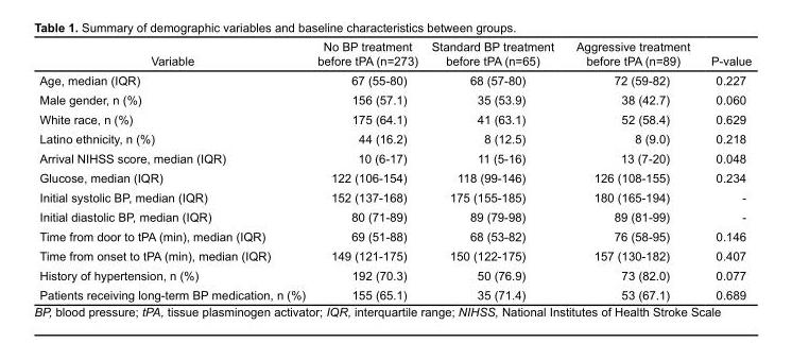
<table><thead><tr><td>Variable</td><td>No BP treatment before tPA (n=273)</td><td>Standard BP treatment before tPA (n=65)</td><td>Aggressive treatment before tPA (n=89)</td><td>P-value</td></tr></thead><tbody><tr><td>Age, median (IQR)</td><td>67 (55-80)</td><td>68 (57-80)</td><td>72 (59-82)</td><td>0.227</td></tr><tr><td>Male gender, n (%)</td><td>156 (57.1)</td><td>35 (53.9)</td><td>38 (42.7)</td><td>0.060</td></tr><tr><td>White race, n (%)</td><td>175 (64.1)</td><td>41 (63.1)</td><td>52 (58.4)</td><td>0.629</td></tr><tr><td>Latino ethnicity, n (%)</td><td>44 (16.2)</td><td>8 (12.5)</td><td>8 (9.0)</td><td>0.218</td></tr><tr><td>Arrival NIHSS score, median (IQR)</td><td>10 (6-17)</td><td>11 (5-16)</td><td>13 (7-20)</td><td>0.048</td></tr><tr><td>Glucose, median (IQR)</td><td>122 (106-154)</td><td>118 (99-146)</td><td>126 (108-155)</td><td>0.234</td></tr><tr><td>Initial systolic BP, median (IQR)</td><td>152 (137-168)</td><td>175 (155-185)</td><td>180 (165-194)</td><td>-</td></tr><tr><td>Initial diastolic BP, median (IQR)</td><td>80 (71-89)</td><td>89 (79-98)</td><td>89 (81-99)</td><td>-</td></tr><tr><td>Time from door to tPA (min), median (IQR)</td><td>69 (51-88)</td><td>68 (53-82)</td><td>76 (58-95)</td><td>0.146</td></tr><tr><td>Time from onset to tPA (min), median (IQR)</td><td>149 (121-175)</td><td>150 (122-175)</td><td>157 (130-182)</td><td>0.407</td></tr><tr><td>History of hypertension, n (%)</td><td>192 (70.3)</td><td>50 (76.9)</td><td>73 (82.0)</td><td>0.077</td></tr><tr><td>Patients receiving long-term BP medication, n (%)</td><td>155 (65.1)</td><td>35 (71.4)</td><td>53 (67.1)</td><td>0.689</td></tr></tbody></table>